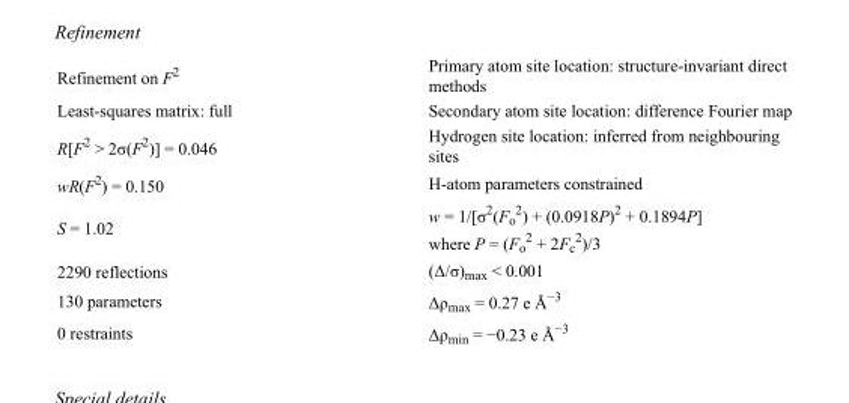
<table><tbody><tr><td>Refinement on F<sup>2</sup></td><td>Primary atom site location: structure-invariant direct methods</td></tr><tr><td>Least-squares matrix: full</td><td>Secondary atom site location: difference Fourier map</td></tr><tr><td>R[F<sup>2</sup> &gt; 2σ(F<sup>2</sup>)] = 0.046</td><td>Hydrogen site location: inferred from neighbouring sites</td></tr><tr><td>wR(F<sup>2</sup>) = 0.150</td><td>H-atom parameters constrained</td></tr><tr><td>S = 1.02</td><td>w = 1/[σ<sup>2</sup>(F<sub>o</sub> <sup>2</sup>) + (0.0918P)<sup>2</sup> + 0.1894P] where P = (F<sub>o</sub> <sup>2</sup> + 2F<sub>c</sub> <sup>2</sup>)/3</td></tr><tr><td>2290 reflections</td><td>(Δ/σ)<sub>max</sub> &lt; 0.001</td></tr><tr><td>130 parameters</td><td>Δρ<sub>max</sub> = 0.27 e Å<sup>−3</sup></td></tr><tr><td>0 restraints</td><td>Δρ<sub>min</sub> = −0.23 e Å<sup>−3</sup></td></tr></tbody></table>